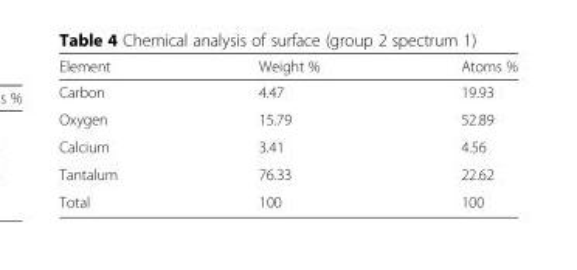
<table><thead><tr><td>Element</td><td>Weight %</td><td>Atoms %</td></tr></thead><tbody><tr><td>Carbon</td><td>4.47</td><td>19.93</td></tr><tr><td>Oxygen</td><td>15.79</td><td>52.89</td></tr><tr><td>Calcium</td><td>3.41</td><td>4.56</td></tr><tr><td>Tantalum</td><td>76.33</td><td>22.62</td></tr><tr><td>Total</td><td>100</td><td>100</td></tr></tbody></table>